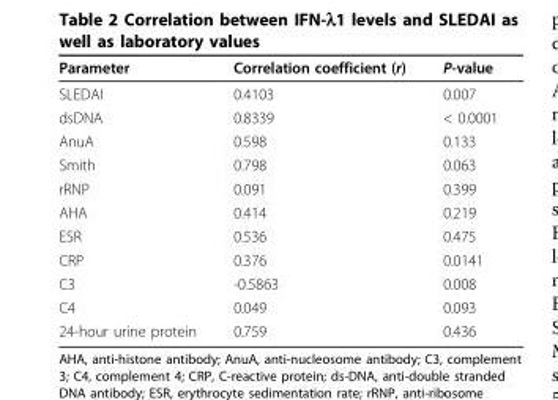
<table><thead><tr><td>Parameter</td><td>Correlation coefficient (r)</td><td>P-value</td></tr></thead><tbody><tr><td>SLEDAI</td><td>0.4103</td><td>0.007</td></tr><tr><td>dsDNA</td><td>0.8339</td><td>&lt; 0.0001</td></tr><tr><td>AnuA</td><td>0.598</td><td>0.133</td></tr><tr><td>Smith</td><td>0.798</td><td>0.063</td></tr><tr><td>rRNP</td><td>0.091</td><td>0.399</td></tr><tr><td>AHA</td><td>0.414</td><td>0.219</td></tr><tr><td>ESR</td><td>0.536</td><td>0.475</td></tr><tr><td>CRP</td><td>0.376</td><td>0.0141</td></tr><tr><td>C3</td><td>-0.5863</td><td>0.008</td></tr><tr><td>C4</td><td>0.049</td><td>0.093</td></tr><tr><td>24-hour urine protein</td><td>0.759</td><td>0.436</td></tr></tbody></table>